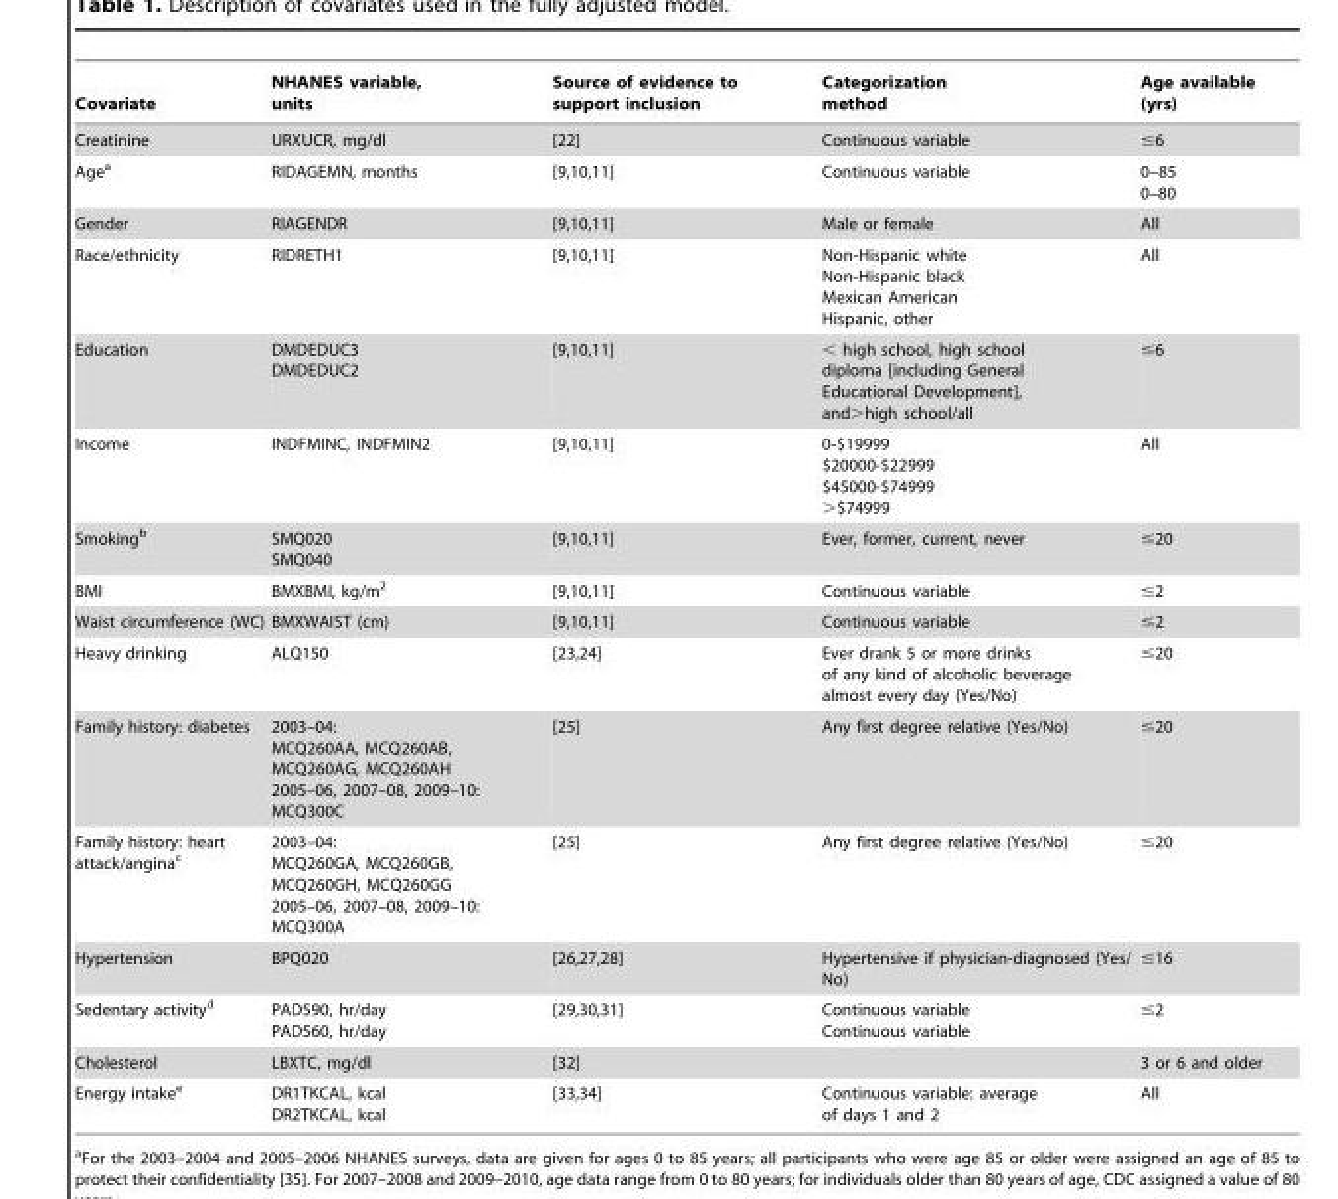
<table><thead><tr><td>Covariate</td><td>NHANES variable, units</td><td>Source of evidence to support inclusion</td><td>Categorization method</td><td>Age available (yrs)</td></tr></thead><tbody><tr><td>Creatinine</td><td>URXUCR, mg/dl</td><td>[22]</td><td>Continuous variable</td><td>≤6</td></tr><tr><td>Age<sup>a</sup></td><td>RIDAGEMN, months</td><td>[9,10,11]</td><td>Continuous variable</td><td>0–85 0–80</td></tr><tr><td>Gender</td><td>RIAGENDR</td><td>[9,10,11]</td><td>Male or female</td><td>All</td></tr><tr><td>Race/ethnicity</td><td>RIDRETH1</td><td>[9,10,11]</td><td>Non-Hispanic white Non-Hispanic black Mexican American Hispanic, other</td><td>All</td></tr><tr><td>Education</td><td>DMDEDUC3 DMDEDUC2</td><td>[9,10,11]</td><td>&lt; high school, high school diploma [including General Educational Development], and&gt;high school/all</td><td>≤6</td></tr><tr><td>Income</td><td>INDFMINC, INDFMIN2</td><td>[9,10,11]</td><td>0-$19999 $20000-$22999 $45000-$74999 &gt;$74999</td><td>All</td></tr><tr><td>Smoking<sup>b</sup></td><td>SMQ020 SMQ040</td><td>[9,10,11]</td><td>Ever, former, current, never</td><td>≤20</td></tr><tr><td>BMI</td><td>BMXBMI, kg/m<sup>2</sup></td><td>[9,10,11]</td><td>Continuous variable</td><td>≤2</td></tr><tr><td>Waist circumference (WC)</td><td>BMXWAIST (cm)</td><td>[9,10,11]</td><td>Continuous variable</td><td>≤2</td></tr><tr><td>Heavy drinking</td><td>ALQ150</td><td>[23,24]</td><td>Ever drank 5 or more drinks of any kind of alcoholic beverage almost every day (Yes/No)</td><td>≤20</td></tr><tr><td>Family history: diabetes</td><td>2003–04: MCQ260AA, MCQ260AB, MCQ260AG, MCQ260AH 2005–06, 2007–08, 2009–10: MCQ300C</td><td>[25]</td><td>Any first degree relative (Yes/No)</td><td>≤20</td></tr><tr><td>Family history: heart attack/angina<sup>c</sup></td><td>2003–04: MCQ260GA, MCQ260GB, MCQ260GH, MCQ260GG 2005–06, 2007–08, 2009–10: MCQ300A</td><td>[25]</td><td>Any first degree relative (Yes/No)</td><td>≤20</td></tr><tr><td>Hypertension</td><td>BPQ020</td><td>[26,27,28]</td><td>Hypertensive if physician-diagnosed (Yes/ No)</td><td>≤16</td></tr><tr><td>Sedentary activity<sup>d</sup></td><td>PAD590, hr/day PAD560, hr/day</td><td>[29,30,31]</td><td>Continuous variable Continuous variable</td><td>≤2</td></tr><tr><td>Cholesterol</td><td>LBXTC, mg/dl</td><td>[32]</td><td></td><td>3 or 6 and older</td></tr><tr><td>Energy intake<sup>e</sup></td><td>DR1TKCAL, kcal DR2TKCAL, kcal</td><td>[33,34]</td><td>Continuous variable: average of days 1 and 2</td><td>All</td></tr></tbody></table>